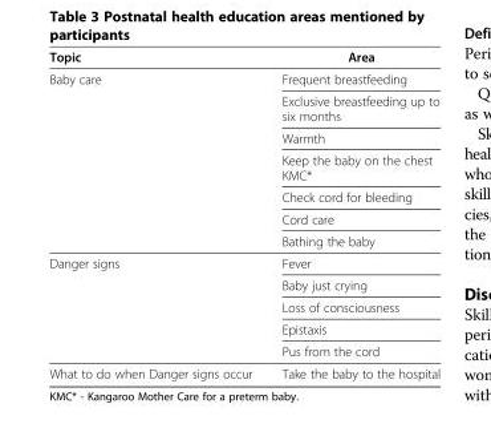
<table><thead><tr><td>Topic</td><td>Area</td></tr></thead><tbody><tr><td rowspan="7">Baby care</td><td>Frequent breastfeeding</td></tr><tr><td>Exclusive breastfeeding up to six months</td></tr><tr><td>Warmth</td></tr><tr><td>Keep the baby on the chest KMC*</td></tr><tr><td>Check cord for bleeding</td></tr><tr><td>Cord care</td></tr><tr><td>Bathing the baby</td></tr><tr><td rowspan="5">Danger signs</td><td>Fever</td></tr><tr><td>Baby just crying</td></tr><tr><td>Loss of consciousness</td></tr><tr><td>Epistaxis</td></tr><tr><td>Pus from the cord</td></tr><tr><td>What to do when Danger signs occur</td><td>Take the baby to the hospital</td></tr></tbody></table>